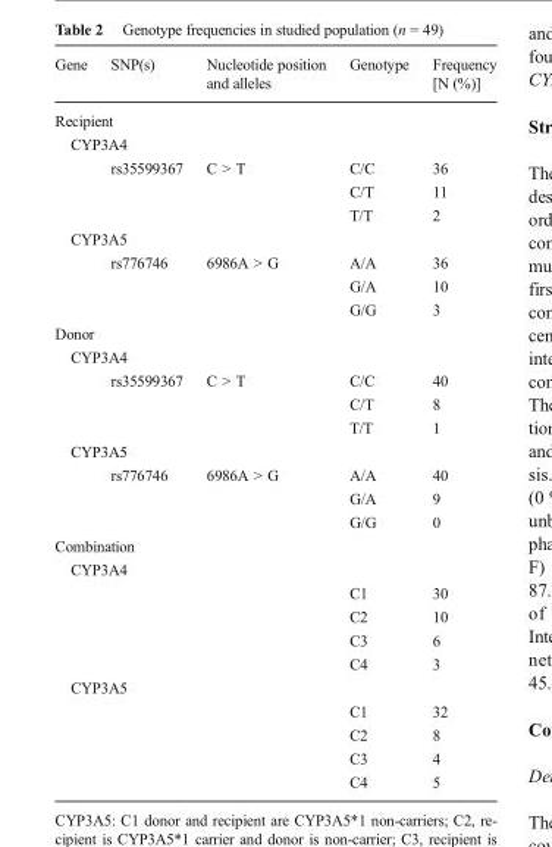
<table><thead><tr><td>Gene</td><td>SNP(s)</td><td>Nucleotide position and alleles</td><td>Genotype</td><td>Frequency [N (%)]</td></tr></thead><tbody><tr><td colspan="5">Recipient</td></tr><tr><td colspan="5">CYP3A4</td></tr><tr><td></td><td>rs35599367</td><td>C &gt; T</td><td>C/C</td><td>36</td></tr><tr><td></td><td></td><td></td><td>C/T</td><td>11</td></tr><tr><td></td><td></td><td></td><td>T/T</td><td>2</td></tr><tr><td colspan="5">CYP3A5</td></tr><tr><td></td><td>rs776746</td><td>6986A &gt; G</td><td>A/A</td><td>36</td></tr><tr><td></td><td></td><td></td><td>G/A</td><td>10</td></tr><tr><td></td><td></td><td></td><td>G/G</td><td>3</td></tr><tr><td colspan="5">Donor</td></tr><tr><td colspan="5">CYP3A4</td></tr><tr><td></td><td>rs35599367</td><td>C &gt; T</td><td>C/C</td><td>40</td></tr><tr><td></td><td></td><td></td><td>C/T</td><td>8</td></tr><tr><td></td><td></td><td></td><td>T/T</td><td>1</td></tr><tr><td colspan="5">CYP3A5</td></tr><tr><td></td><td>rs776746</td><td>6986A &gt; G</td><td>A/A</td><td>40</td></tr><tr><td></td><td></td><td></td><td>G/A</td><td>9</td></tr><tr><td></td><td></td><td></td><td>G/G</td><td>0</td></tr><tr><td colspan="5">Combination</td></tr><tr><td colspan="5">CYP3A4</td></tr><tr><td></td><td></td><td></td><td>C1</td><td>30</td></tr><tr><td></td><td></td><td></td><td>C2</td><td>10</td></tr><tr><td></td><td></td><td></td><td>C3</td><td>6</td></tr><tr><td></td><td></td><td></td><td>C4</td><td>3</td></tr><tr><td colspan="5">CYP3A5</td></tr><tr><td></td><td></td><td></td><td>C1</td><td>32</td></tr><tr><td></td><td></td><td></td><td>C2</td><td>8</td></tr><tr><td></td><td></td><td></td><td>C3</td><td>4</td></tr><tr><td></td><td></td><td></td><td>C4</td><td>5</td></tr></tbody></table>